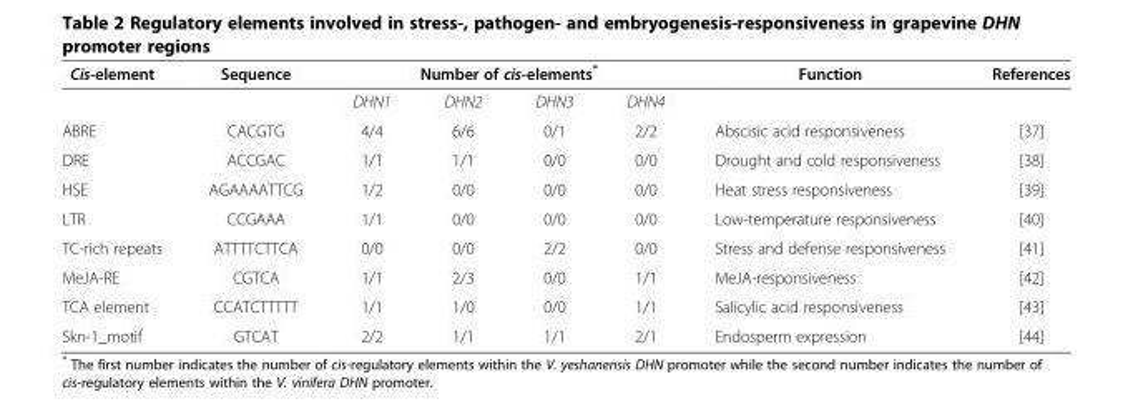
<table><thead><tr><td rowspan="2">Cis-element</td><td rowspan="2">Sequence</td><td colspan="4">Number of cis-elements*</td><td rowspan="2">Function</td><td rowspan="2">References</td></tr><tr><td>DHN1</td><td>DHN2</td><td>DHN3</td><td>DHN4</td></tr></thead><tbody><tr><td>ABRE</td><td>CACGTG</td><td>4/4</td><td>6/6</td><td>0/1</td><td>2/2</td><td>Abscisic acid responsiveness</td><td>[37]</td></tr><tr><td>DRE</td><td>ACCGAC</td><td>1/1</td><td>1/1</td><td>0/0</td><td>0/0</td><td>Drought and cold responsiveness</td><td>[38]</td></tr><tr><td>HSE</td><td>AGAAAATTCG</td><td>1/2</td><td>0/0</td><td>0/0</td><td>0/0</td><td>Heat stress responsiveness</td><td>[39]</td></tr><tr><td>LTR</td><td>CCGAAA</td><td>1/1</td><td>0/0</td><td>0/0</td><td>0/0</td><td>Low-temperature responsiveness</td><td>[40]</td></tr><tr><td>TC-rich repeats</td><td>ATTTTCTTCA</td><td>0/0</td><td>0/0</td><td>2/2</td><td>0/0</td><td>Stress and defense responsiveness</td><td>[41]</td></tr><tr><td>MeJA-RE</td><td>CGTCA</td><td>1/1</td><td>2/3</td><td>0/0</td><td>1/1</td><td>MeJA-responsiveness</td><td>[42]</td></tr><tr><td>TCA element</td><td>CCATCTTTTT</td><td>1/1</td><td>1/0</td><td>0/0</td><td>1/1</td><td>Salicylic acid responsiveness</td><td>[43]</td></tr><tr><td>Skn-1_motif</td><td>GTCAT</td><td>2/2</td><td>1/1</td><td>1/1</td><td>2/1</td><td>Endosperm expression</td><td>[44]</td></tr></tbody></table>